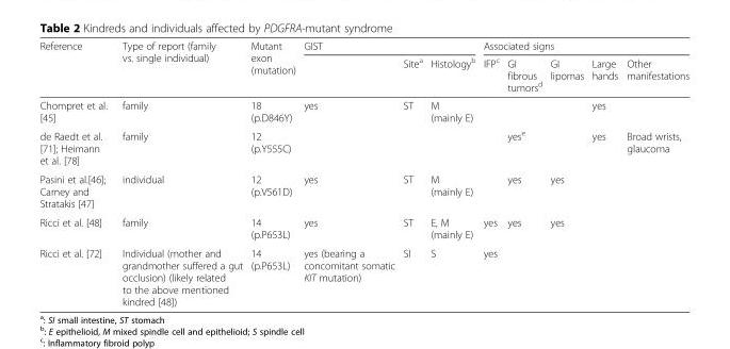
<table><thead><tr><td rowspan="2">Reference</td><td rowspan="2">Type of report (family vs. single individual)</td><td rowspan="2">Mutant exon (mutation)</td><td colspan="3">GIST</td><td colspan="5">Associated signs</td></tr><tr><td></td><td>Site<sup>a</sup></td><td>Histology<sup>b</sup></td><td>IFP<sup>c</sup></td><td>GI fibrous tumors<sup>d</sup></td><td>GI lipomas</td><td>Large hands</td><td>Other manifestations</td></tr></thead><tbody><tr><td>Chompret et al. [45]</td><td>family</td><td>18 (p.D846Y)</td><td>yes</td><td>ST</td><td>M (mainly E)</td><td></td><td></td><td></td><td>yes</td><td></td></tr><tr><td>de Raedt et al. [71]; Heimann et al. [78]</td><td>family</td><td>12 (p.Y555C)</td><td></td><td></td><td></td><td></td><td>yes<sup>e</sup></td><td></td><td>yes</td><td>Broad wrists, glaucoma</td></tr><tr><td>Pasini et al.[46]; Carney and Stratakis [47]</td><td>individual</td><td>12 (p.V561D)</td><td>yes</td><td>ST</td><td>M (mainly E)</td><td></td><td>yes</td><td>yes</td><td></td><td></td></tr><tr><td>Ricci et al. [48]</td><td>family</td><td>14 (p.P653L)</td><td>yes</td><td>ST</td><td>E, M (mainly E)</td><td>yes</td><td>yes</td><td>yes</td><td></td><td></td></tr><tr><td>Ricci et al. [72]</td><td>Individual (mother and grandmother suffered a gut occlusion) (likely related to the above mentioned kindred [48])</td><td>14 (p.P653L)</td><td>yes (bearing a concomitant somatic KIT mutation)</td><td>SI</td><td>S</td><td>yes</td><td></td><td></td><td></td><td></td></tr></tbody></table>